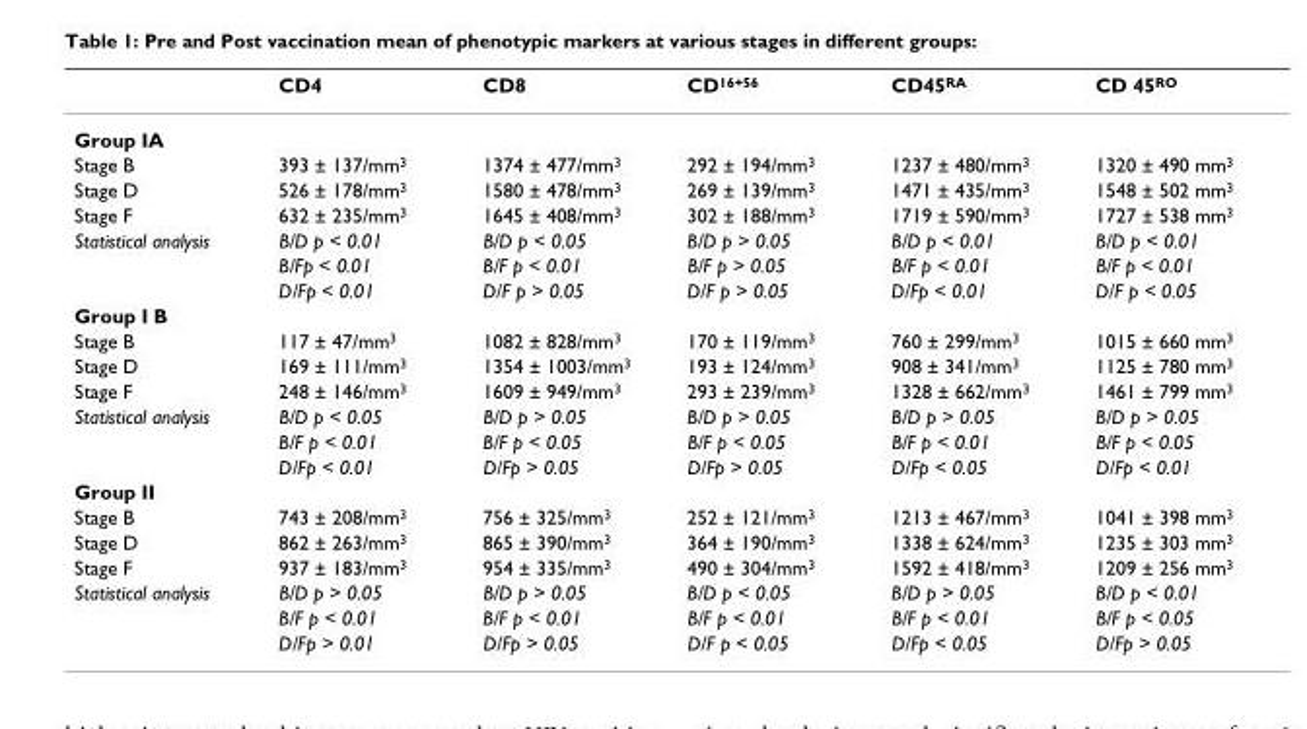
<table><thead><tr><td></td><td>CD4</td><td>CD8</td><td>CD<sup>16+56</sup></td><td>CD45<sup>RA</sup></td><td>CD 45<sup>RO</sup></td></tr></thead><tbody><tr><td colspan="6">Group IA</td></tr><tr><td>Stage B</td><td>393 ± 137/mm<sup>3</sup></td><td>1374 ± 477/mm<sup>3</sup></td><td>292 ± 194/mm<sup>3</sup></td><td>1237 ± 480/mm<sup>3</sup></td><td>1320 ± 490 mm<sup>3</sup></td></tr><tr><td>Stage D</td><td>526 ± 178/mm<sup>3</sup></td><td>1580 ± 478/mm<sup>3</sup></td><td>269 ± 139/mm<sup>3</sup></td><td>1471 ± 435/mm<sup>3</sup></td><td>1548 ± 502 mm<sup>3</sup></td></tr><tr><td>Stage F</td><td>632 ± 235/mm<sup>3</sup></td><td>1645 ± 408/mm<sup>3</sup></td><td>302 ± 188/mm<sup>3</sup></td><td>1719 ± 590/mm<sup>3</sup></td><td>1727 ± 538 mm<sup>3</sup></td></tr><tr><td rowspan="3">Statistical analysis</td><td>B/D p &lt; 0.01</td><td>B/D p &lt; 0.05</td><td>B/D p &gt; 0.05</td><td>B/D p &lt; 0.01</td><td>B/D p &lt; 0.01</td></tr><tr><td>B/Fp &lt; 0.01</td><td>B/F p &lt; 0.01</td><td>B/F p &gt; 0.05</td><td>B/F p &lt; 0.01</td><td>B/F p &lt; 0.01</td></tr><tr><td>D/Fp &lt; 0.01</td><td>D/F p &gt; 0.05</td><td>D/F p &gt; 0.05</td><td>D/Fp &lt; 0.01</td><td>D/F p &lt; 0.05</td></tr><tr><td colspan="6">Group I B</td></tr><tr><td>Stage B</td><td>117 ± 47/mm<sup>3</sup></td><td>1082 ± 828/mm<sup>3</sup></td><td>170 ± 119/mm<sup>3</sup></td><td>760 ± 299/mm<sup>3</sup></td><td>1015 ± 660 mm<sup>3</sup></td></tr><tr><td>Stage D</td><td>169 ± 111/mm<sup>3</sup></td><td>1354 ± 1003/mm<sup>3</sup></td><td>193 ± 124/mm<sup>3</sup></td><td>908 ± 341/mm<sup>3</sup></td><td>1125 ± 780 mm<sup>3</sup></td></tr><tr><td>Stage F</td><td>248 ± 146/mm<sup>3</sup></td><td>1609 ± 949/mm<sup>3</sup></td><td>293 ± 239/mm<sup>3</sup></td><td>1328 ± 662/mm<sup>3</sup></td><td>1461 ± 799 mm<sup>3</sup></td></tr><tr><td rowspan="3">Statistical analysis</td><td>B/D p &lt; 0.05</td><td>B/D p &gt; 0.05</td><td>B/D p &gt; 0.05</td><td>B/D p &gt; 0.05</td><td>B/D p &gt; 0.05</td></tr><tr><td>B/F p &lt; 0.01</td><td>B/F p &lt; 0.05</td><td>B/F p &lt; 0.05</td><td>B/F p &lt; 0.01</td><td>B/F p &lt; 0.05</td></tr><tr><td>D/Fp &lt; 0.01</td><td>D/Fp &gt; 0.05</td><td>D/Fp &gt; 0.05</td><td>D/Fp &lt; 0.05</td><td>D/Fp &lt; 0.01</td></tr><tr><td colspan="6">Group II</td></tr><tr><td>Stage B</td><td>743 ± 208/mm<sup>3</sup></td><td>756 ± 325/mm<sup>3</sup></td><td>252 ± 121/mm<sup>3</sup></td><td>1213 ± 467/mm<sup>3</sup></td><td>1041 ± 398 mm<sup>3</sup></td></tr><tr><td>Stage D</td><td>862 ± 263/mm<sup>3</sup></td><td>865 ± 390/mm<sup>3</sup></td><td>364 ± 190/mm<sup>3</sup></td><td>1338 ± 624/mm<sup>3</sup></td><td>1235 ± 303 mm<sup>3</sup></td></tr><tr><td>Stage F</td><td>937 ± 183/mm<sup>3</sup></td><td>954 ± 335/mm<sup>3</sup></td><td>490 ± 304/mm<sup>3</sup></td><td>1592 ± 418/mm<sup>3</sup></td><td>1209 ± 256 mm<sup>3</sup></td></tr><tr><td rowspan="3">Statistical analysis</td><td>B/D p &gt; 0.05</td><td>B/D p &gt; 0.05</td><td>B/D p &lt; 0.05</td><td>B/D p &gt; 0.05</td><td>B/D p &lt; 0.01</td></tr><tr><td>B/F p &lt; 0.01</td><td>B/F p &lt; 0.01</td><td>B/F p &lt; 0.01</td><td>B/F p &lt; 0.01</td><td>B/F p &lt; 0.05</td></tr><tr><td>D/Fp &gt; 0.01</td><td>D/Fp &gt; 0.05</td><td>D/F p &lt; 0.05</td><td>D/Fp &lt; 0.05</td><td>D/Fp &gt; 0.05</td></tr></tbody></table>